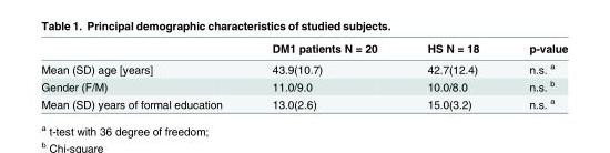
<table><thead><tr><td></td><td>DM1 patients N = 20</td><td>HS N = 18</td><td>p-value</td></tr></thead><tbody><tr><td>Mean (SD) age [years]</td><td>43.9(10.7)</td><td>42.7(12.4)</td><td>n.s. <sup>a</sup></td></tr><tr><td>Gender (F/M)</td><td>11.0/9.0</td><td>10.0/8.0</td><td>n.s. <sup>b</sup></td></tr><tr><td>Mean (SD) years of formal education</td><td>13.0(2.6)</td><td>15.0(3.2)</td><td>n.s. <sup>a</sup></td></tr></tbody></table>